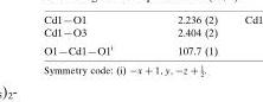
<table><tbody><tr><td>O1—Cd1—O1<sup>i</sup></td><td>107.7 (1)</td></tr></tbody></table>